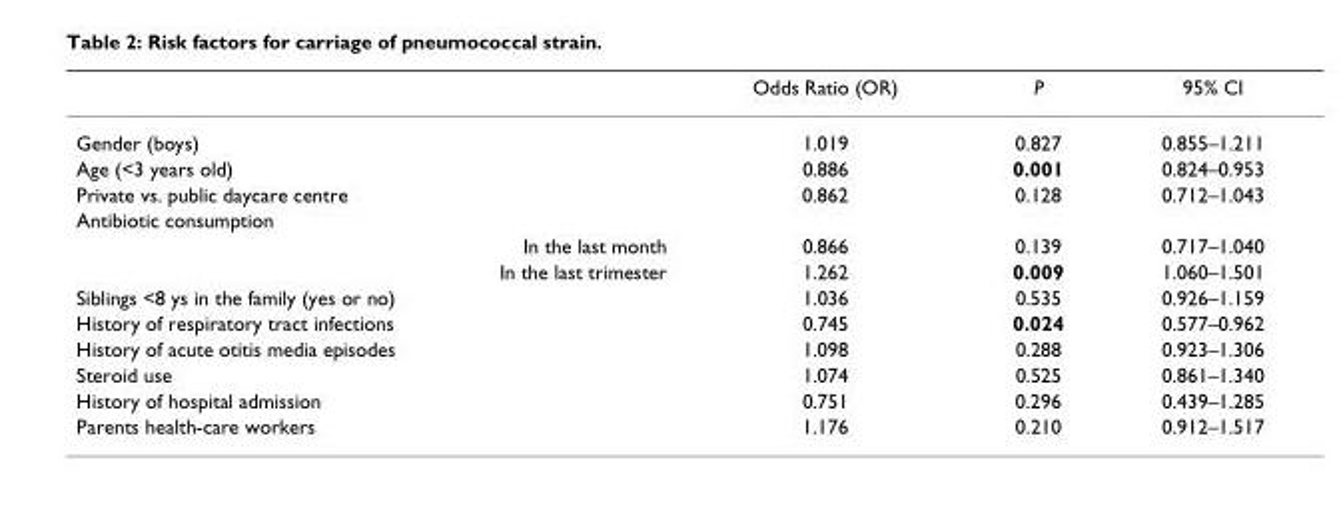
<table><thead><tr><td></td><td>Odds Ratio (OR)</td><td>P</td><td>95% CI</td></tr></thead><tbody><tr><td>Gender (boys)</td><td>1.019</td><td>0.827</td><td>0.855–1.211</td></tr><tr><td>Age (&lt;3 years old)</td><td>0.886</td><td>0.001</td><td>0.824–0.953</td></tr><tr><td>Private vs. public daycare centre</td><td>0.862</td><td>0.128</td><td>0.712–1.043</td></tr><tr><td colspan="4">Antibiotic consumption</td></tr><tr><td>In the last month</td><td>0.866</td><td>0.139</td><td>0.717–1.040</td></tr><tr><td>In the last trimester</td><td>1.262</td><td>0.009</td><td>1.060–1.501</td></tr><tr><td>Siblings &lt;8 ys in the family (yes or no)</td><td>1.036</td><td>0.535</td><td>0.926–1.159</td></tr><tr><td>History of respiratory tract infections</td><td>0.745</td><td>0.024</td><td>0.577–0.962</td></tr><tr><td>History of acute otitis media episodes</td><td>1.098</td><td>0.288</td><td>0.923–1.306</td></tr><tr><td>Steroid use</td><td>1.074</td><td>0.525</td><td>0.861–1.340</td></tr><tr><td>History of hospital admission</td><td>0.751</td><td>0.296</td><td>0.439–1.285</td></tr><tr><td>Parents health-care workers</td><td>1.176</td><td>0.210</td><td>0.912–1.517</td></tr></tbody></table>